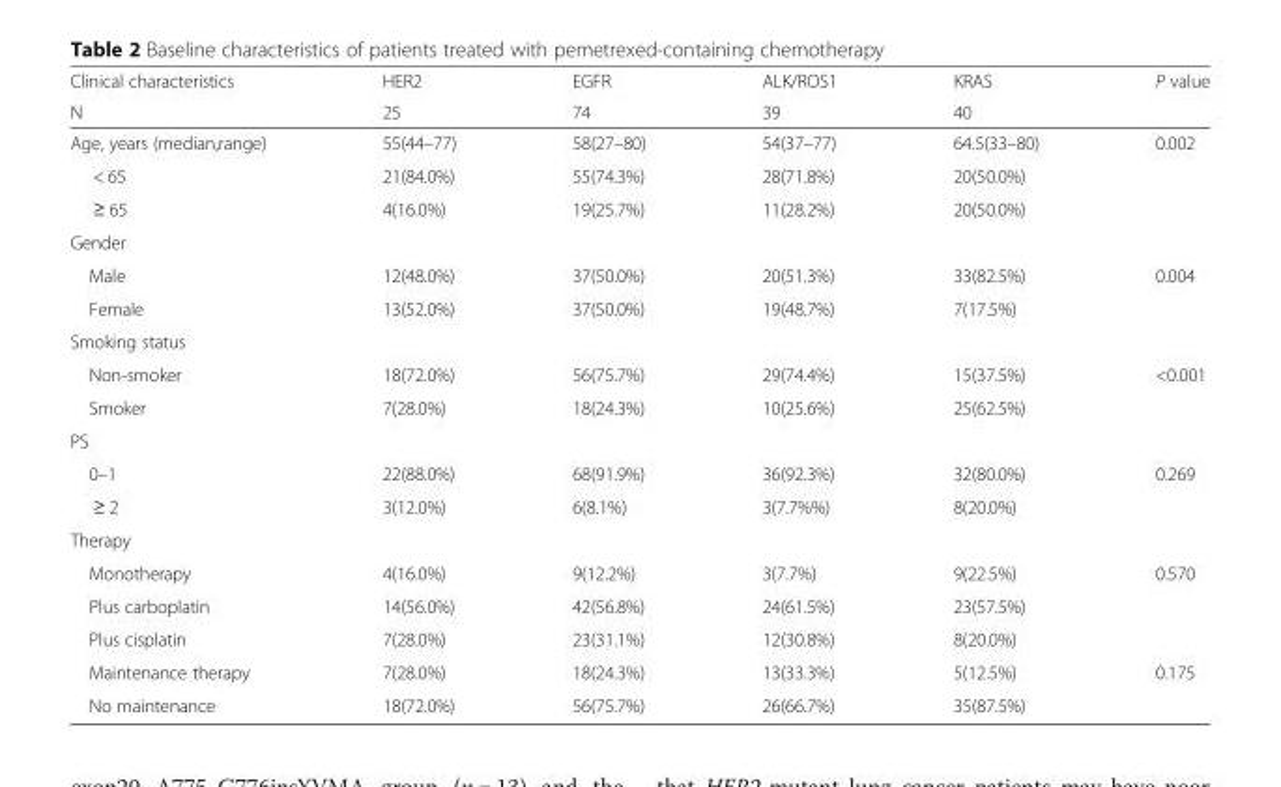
<table><thead><tr><td rowspan="2">Clinical characteristics N</td><td rowspan="2">HER2 25</td><td rowspan="2">EGFR 74</td><td rowspan="2">ALK/ROS1 39</td><td rowspan="2">KRAS 40</td><td rowspan="2">P value</td></tr><tr></tr></thead><tbody><tr><td>Age, years (median,range)</td><td>55(44–77)</td><td>58(27–80)</td><td>54(37–77)</td><td>64.5(33–80)</td><td>0.002</td></tr><tr><td>&lt; 65</td><td>21(84.0%)</td><td>55(74.3%)</td><td>28(71.8%)</td><td>20(50.0%)</td><td></td></tr><tr><td>≥ 65</td><td>4(16.0%)</td><td>19(25.7%)</td><td>11(28.2%)</td><td>20(50.0%)</td><td></td></tr><tr><td colspan="6">Gender</td></tr><tr><td>Male</td><td>12(48.0%)</td><td>37(50.0%)</td><td>20(51.3%)</td><td>33(82.5%)</td><td>0.004</td></tr><tr><td>Female</td><td>13(52.0%)</td><td>37(50.0%)</td><td>19(48.7%)</td><td>7(17.5%)</td><td></td></tr><tr><td colspan="6">Smoking status</td></tr><tr><td>Non-smoker</td><td>18(72.0%)</td><td>56(75.7%)</td><td>29(74.4%)</td><td>15(37.5%)</td><td>&lt;0.001</td></tr><tr><td>Smoker</td><td>7(28.0%)</td><td>18(24.3%)</td><td>10(25.6%)</td><td>25(62.5%)</td><td></td></tr><tr><td colspan="6">PS</td></tr><tr><td>0–1</td><td>22(88.0%)</td><td>68(91.9%)</td><td>36(92.3%)</td><td>32(80.0%)</td><td>0.269</td></tr><tr><td>≥ 2</td><td>3(12.0%)</td><td>6(8.1%)</td><td>3(7.7%%)</td><td>8(20.0%)</td><td></td></tr><tr><td colspan="6">Therapy</td></tr><tr><td>Monotherapy</td><td>4(16.0%)</td><td>9(12.2%)</td><td>3(7.7%)</td><td>9(22.5%)</td><td>0.570</td></tr><tr><td>Plus carboplatin</td><td>14(56.0%)</td><td>42(56.8%)</td><td>24(61.5%)</td><td>23(57.5%)</td><td></td></tr><tr><td>Plus cisplatin</td><td>7(28.0%)</td><td>23(31.1%)</td><td>12(30.8%)</td><td>8(20.0%)</td><td></td></tr><tr><td>Maintenance therapy</td><td>7(28.0%)</td><td>18(24.3%)</td><td>13(33.3%)</td><td>5(12.5%)</td><td>0.175</td></tr><tr><td>No maintenance</td><td>18(72.0%)</td><td>56(75.7%)</td><td>26(66.7%)</td><td>35(87.5%)</td><td></td></tr></tbody></table>